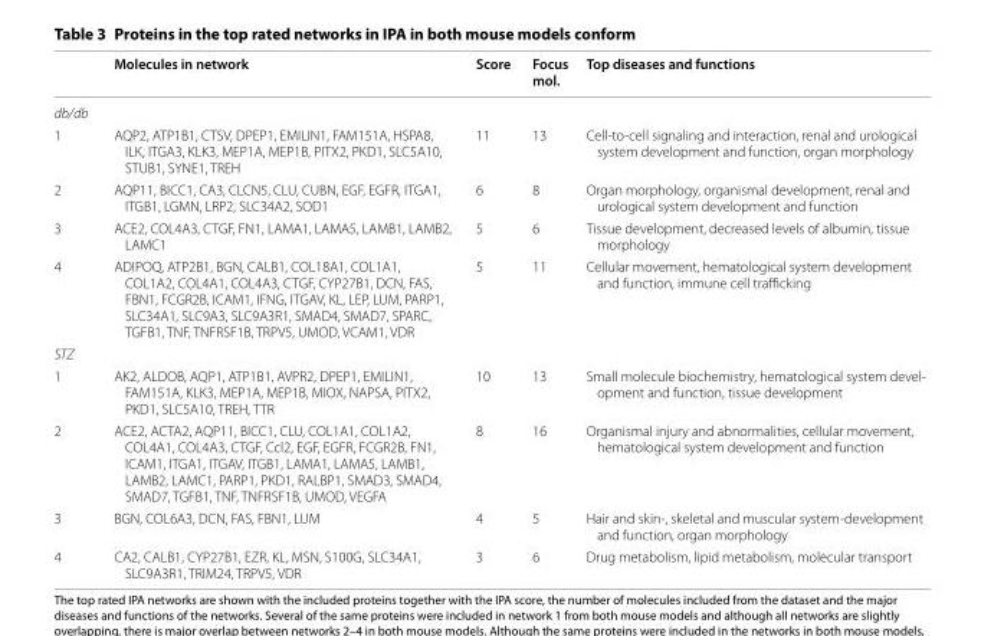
<table><thead><tr><td></td><td>Molecules in network</td><td>Score</td><td>Focus mol.</td><td>Top diseases and functions</td></tr></thead><tbody><tr><td colspan="5">db/db</td></tr><tr><td>1</td><td>AQP2, ATP1B1, CTSV, DPEP1, EMILIN1, FAM151A, HSPA8, ILK, ITGA3, KLK3, MEP1A, MEP1B, PITX2, PKD1, SLC5A10, STUB1, SYNE1, TREH</td><td>11</td><td>13</td><td>Cell-to-cell signaling and interaction, renal and urological system development and function, organ morphology</td></tr><tr><td>2</td><td>AQP11, BICC1, CA3, CLCN5, CLU, CUBN, EGF, EGFR, ITGA1, ITGB1, LGMN, LRP2, SLC34A2, SOD1</td><td>6</td><td>8</td><td>Organ morphology, organismal development, renal and urological system development and function</td></tr><tr><td>3</td><td>ACE2, COL4A3, CTGF, FN1, LAMA1, LAMA5, LAMB1, LAMB2, LAMC1</td><td>5</td><td>6</td><td>Tissue development, decreased levels of albumin, tissue morphology</td></tr><tr><td>4</td><td>ADIPOQ, ATP2B1, BGN, CALB1, COL18A1, COL1A1, COL1A2, COL4A1, COL4A3, CTGF, CYP27B1, DCN, FAS, FBN1, FCGR2B, ICAM1, IFNG, ITGAV, KL, LEP, LUM, PARP1, SLC34A1, SLC9A3, SLC9A3R1, SMAD4, SMAD7, SPARC, TGFB1, TNF, TNFRSF1B, TRPV5, UMOD, VCAM1, VDR</td><td>5</td><td>11</td><td>Cellular movement, hematological system development and function, immune cell trafficking</td></tr><tr><td colspan="5">STZ</td></tr><tr><td>1</td><td>AK2, ALDOB, AQP1, ATP1B1, AVPR2, DPEP1, EMILIN1, FAM151A, KLK3, MEP1A, MEP1B, MIOX, NAPSA, PITX2, PKD1, SLC5A10, TREH, TTR</td><td>10</td><td>13</td><td>Small molecule biochemistry, hematological system devel- opment and function, tissue development</td></tr><tr><td>2</td><td>ACE2, ACTA2, AQP11, BICC1, CLU, COL1A1, COL1A2, COL4A1, COL4A3, CTGF, Ccl2, EGF, EGFR, FCGR2B, FN1, ICAM1, ITGA1, ITGAV, ITGB1, LAMA1, LAMA5, LAMB1, LAMB2, LAMC1, PARP1, PKD1, RALBP1, SMAD3, SMAD4, SMAD7, TGFB1, TNF, TNFRSF1B, UMOD, VEGFA</td><td>8</td><td>16</td><td>Organismal injury and abnormalities, cellular movement, hematological system development and function</td></tr><tr><td>3</td><td>BGN, COL6A3, DCN, FAS, FBN1, LUM</td><td>4</td><td>5</td><td>Hair and skin-, skeletal and muscular system-development and function, organ morphology</td></tr><tr><td>4</td><td>CA2, CALB1, CYP27B1, EZR, KL, MSN, S100G, SLC34A1, SLC9A3R1, TRIM24, TRPV5, VDR</td><td>3</td><td>6</td><td>Drug metabolism, lipid metabolism, molecular transport</td></tr></tbody></table>